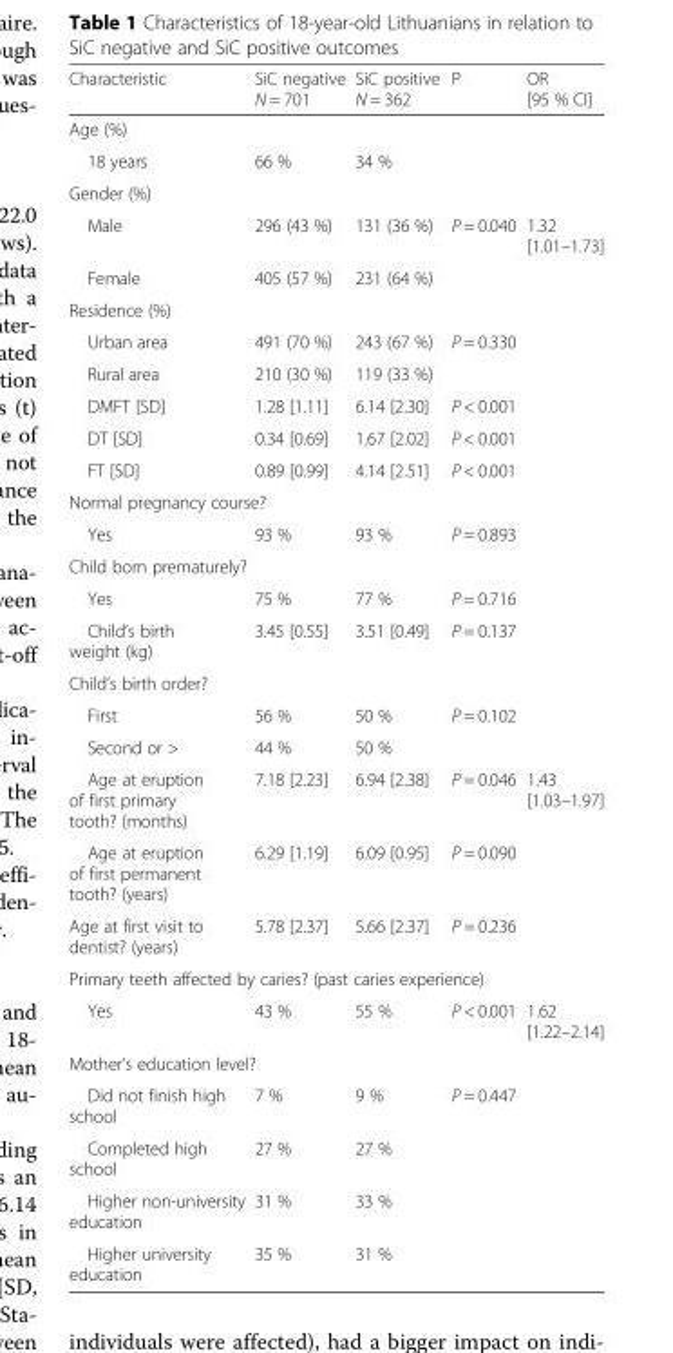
<table><thead><tr><td>Characteristic</td><td>SiC negative N = 701</td><td>SiC positive N = 362</td><td>P</td><td>OR [95 % CI]</td></tr></thead><tbody><tr><td colspan="5">Age (%)</td></tr><tr><td>18 years</td><td>66 %</td><td>34 %</td><td></td><td></td></tr><tr><td colspan="5">Gender (%)</td></tr><tr><td>Male</td><td>296 (43 %)</td><td>131 (36 %)</td><td>P = 0.040</td><td>1.32 [1.01–1.73]</td></tr><tr><td>Female</td><td>405 (57 %)</td><td>231 (64 %)</td><td></td><td></td></tr><tr><td colspan="5">Residence (%)</td></tr><tr><td>Urban area</td><td>491 (70 %)</td><td>243 (67 %)</td><td>P = 0.330</td><td></td></tr><tr><td>Rural area</td><td>210 (30 %)</td><td>119 (33 %)</td><td></td><td></td></tr><tr><td>DMFT [SD]</td><td>1.28 [1.11]</td><td>6.14 [2.30]</td><td>P &lt; 0.001</td><td></td></tr><tr><td>DT [SD]</td><td>0.34 [0.69]</td><td>1.67 [2.02]</td><td>P &lt; 0.001</td><td></td></tr><tr><td>FT [SD]</td><td>0.89 [0.99]</td><td>4.14 [2.51]</td><td>P &lt; 0.001</td><td></td></tr><tr><td colspan="5">Normal pregnancy course?</td></tr><tr><td>Yes</td><td>93 %</td><td>93 %</td><td>P = 0.893</td><td></td></tr><tr><td colspan="5">Child born prematurely?</td></tr><tr><td>Yes</td><td>75 %</td><td>77 %</td><td>P = 0.716</td><td></td></tr><tr><td>Child’s birth weight (kg)</td><td>3.45 [0.55]</td><td>3.51 [0.49]</td><td>P = 0.137</td><td></td></tr><tr><td colspan="5">Child’s birth order?</td></tr><tr><td>First</td><td>56 %</td><td>50 %</td><td>P = 0.102</td><td></td></tr><tr><td>Second or &gt;</td><td>44 %</td><td>50 %</td><td></td><td></td></tr><tr><td>Age at eruption of first primary tooth? (months)</td><td>7.18 [2.23]</td><td>6.94 [2.38]</td><td>P = 0.046</td><td>1.43 [1.03–1.97]</td></tr><tr><td>Age at eruption of first permanent tooth? (years)</td><td>6.29 [1.19]</td><td>6.09 [0.95]</td><td>P = 0.090</td><td></td></tr><tr><td>Age at first visit to dentist? (years)</td><td>5.78 [2.37]</td><td>5.66 [2.37]</td><td>P = 0.236</td><td></td></tr><tr><td colspan="5">Primary teeth affected by caries? (past caries experience)</td></tr><tr><td>Yes</td><td>43 %</td><td>55 %</td><td>P &lt; 0.001</td><td>1.62 [1.22–2.14]</td></tr><tr><td colspan="5">Mother’s education level?</td></tr><tr><td>Did not finish high school</td><td>7 %</td><td>9 %</td><td>P = 0.447</td><td></td></tr><tr><td>Completed high school</td><td>27 %</td><td>27 %</td><td></td><td></td></tr><tr><td>Higher non-university education</td><td>31 %</td><td>33 %</td><td></td><td></td></tr><tr><td>Higher university education</td><td>35 %</td><td>31 %</td><td></td><td></td></tr></tbody></table>